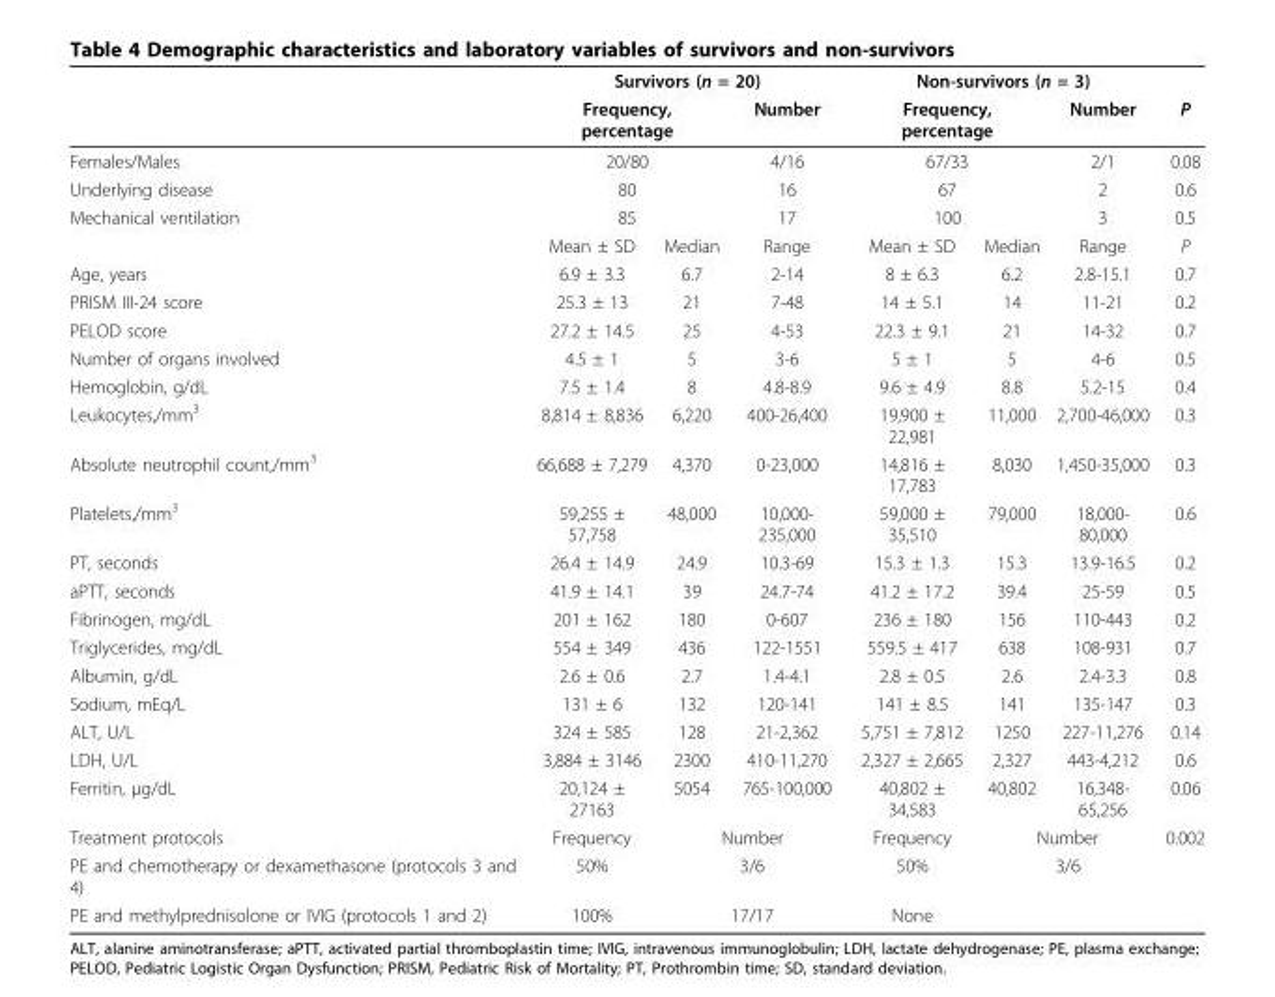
<table><thead><tr><td rowspan="2"></td><td colspan="3">Survivors (n = 20)</td><td colspan="3">Non-survivors (n = 3)</td><td rowspan="2">P</td></tr><tr><td colspan="2">Frequency, percentage</td><td>Number</td><td colspan="2">Frequency, percentage</td><td>Number</td></tr></thead><tbody><tr><td>Females/Males</td><td colspan="2">20/80</td><td>4/16</td><td colspan="2">67/33</td><td>2/1</td><td>0.08</td></tr><tr><td>Underlying disease</td><td colspan="2">80</td><td>16</td><td colspan="2">67</td><td>2</td><td>0.6</td></tr><tr><td rowspan="2">Mechanical ventilation</td><td colspan="2">85</td><td>17</td><td colspan="2">100</td><td>3</td><td>0.5</td></tr><tr><td>Mean ± SD</td><td>Median</td><td>Range</td><td>Mean ± SD</td><td>Median</td><td>Range</td><td>P</td></tr><tr><td>Age, years</td><td>6.9 ± 3.3</td><td>6.7</td><td>2-14</td><td>8 ± 6.3</td><td>6.2</td><td>2.8-15.1</td><td>0.7</td></tr><tr><td>PRISM III-24 score</td><td>25.3 ± 13</td><td>21</td><td>7-48</td><td>14 ± 5.1</td><td>14</td><td>11-21</td><td>0.2</td></tr><tr><td>PELOD score</td><td>27.2 ± 14.5</td><td>25</td><td>4-53</td><td>22.3 ± 9.1</td><td>21</td><td>14-32</td><td>0.7</td></tr><tr><td>Number of organs involved</td><td>4.5 ± 1</td><td>5</td><td>3-6</td><td>5 ± 1</td><td>5</td><td>4-6</td><td>0.5</td></tr><tr><td>Hemoglobin, g/dL</td><td>7.5 ± 1.4</td><td>8</td><td>4.8-8.9</td><td>9.6 ± 4.9</td><td>8.8</td><td>5.2-15</td><td>0.4</td></tr><tr><td>Leukocytes,/mm<sup>3</sup></td><td>8,814 ± 8,836</td><td>6,220</td><td>400-26,400</td><td>19,900 ± 22,981</td><td>11,000</td><td>2,700-46,000</td><td>0.3</td></tr><tr><td>Absolute neutrophil count,/mm<sup>3</sup></td><td>66,688 ± 7,279</td><td>4,370</td><td>0-23,000</td><td>14,816 ± 17,783</td><td>8,030</td><td>1,450-35,000</td><td>0.3</td></tr><tr><td>Platelets,/mm<sup>3</sup></td><td>59,255 ± 57,758</td><td>48,000</td><td>10,000- 235,000</td><td>59,000 ± 35,510</td><td>79,000</td><td>18,000- 80,000</td><td>0.6</td></tr><tr><td>PT, seconds</td><td>26.4 ± 14.9</td><td>24.9</td><td>10.3-69</td><td>15.3 ± 1.3</td><td>15.3</td><td>13.9-16.5</td><td>0.2</td></tr><tr><td>aPTT, seconds</td><td>41.9 ± 14.1</td><td>39</td><td>24.7-74</td><td>41.2 ± 17.2</td><td>39.4</td><td>25-59</td><td>0.5</td></tr><tr><td>Fibrinogen, mg/dL</td><td>201 ± 162</td><td>180</td><td>0-607</td><td>236 ± 180</td><td>156</td><td>110-443</td><td>0.2</td></tr><tr><td>Triglycerides, mg/dL</td><td>554 ± 349</td><td>436</td><td>122-1551</td><td>559.5 ± 417</td><td>638</td><td>108-931</td><td>0.7</td></tr><tr><td>Albumin, g/dL</td><td>2.6 ± 0.6</td><td>2.7</td><td>1.4-4.1</td><td>2.8 ± 0.5</td><td>2.6</td><td>2.4-3.3</td><td>0.8</td></tr><tr><td>Sodium, mEq/L</td><td>131 ± 6</td><td>132</td><td>120-141</td><td>141 ± 8.5</td><td>141</td><td>135-147</td><td>0.3</td></tr><tr><td>ALT, U/L</td><td>324 ± 585</td><td>128</td><td>21-2,362</td><td>5,751 ± 7,812</td><td>1250</td><td>227-11,276</td><td>0.14</td></tr><tr><td>LDH, U/L</td><td>3,884 ± 3146</td><td>2300</td><td>410-11,270</td><td>2,327 ± 2,665</td><td>2,327</td><td>443-4,212</td><td>0.6</td></tr><tr><td>Ferritin, μg/dL</td><td>20,124 ± 27163</td><td>5054</td><td>765-100,000</td><td>40,802 ± 34,583</td><td>40,802</td><td>16,348- 65,256</td><td>0.06</td></tr><tr><td>Treatment protocols</td><td>Frequency</td><td colspan="2">Number</td><td>Frequency</td><td colspan="2">Number</td><td>0.002</td></tr><tr><td>PE and chemotherapy or dexamethasone (protocols 3 and 4)</td><td>50%</td><td colspan="2">3/6</td><td>50%</td><td colspan="2">3/6</td><td></td></tr><tr><td>PE and methylprednisolone or IVIG (protocols 1 and 2)</td><td>100%</td><td colspan="2">17/17</td><td>None</td><td></td><td></td><td></td></tr></tbody></table>